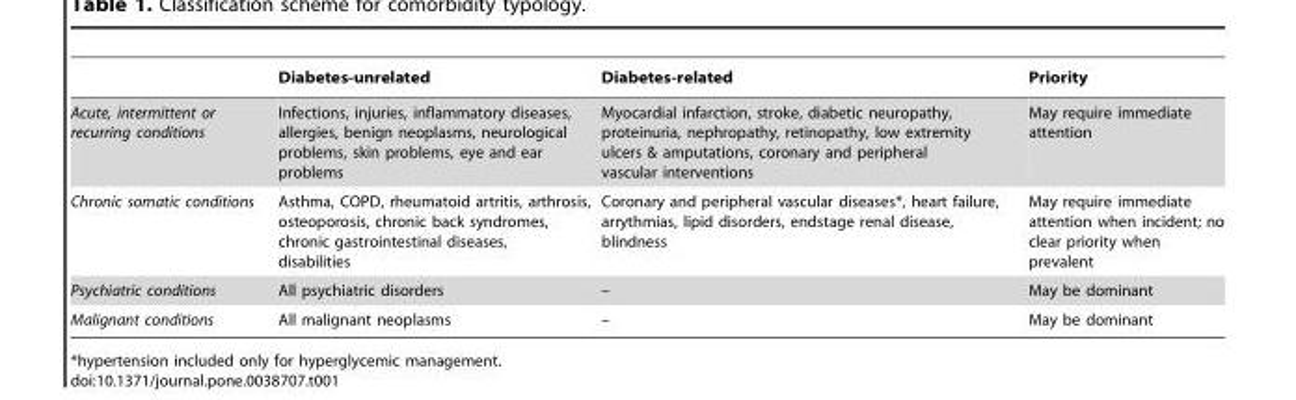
<table><thead><tr><td></td><td>Diabetes-unrelated</td><td>Diabetes-related</td><td>Priority</td></tr></thead><tbody><tr><td>Acute, intermittent or recurring conditions</td><td>Infections, injuries, inflammatory diseases, allergies, benign neoplasms, neurological problems, skin problems, eye and ear problems</td><td>Myocardial infarction, stroke, diabetic neuropathy, proteinuria, nephropathy, retinopathy, low extremity ulcers &amp; amputations, coronary and peripheral vascular interventions</td><td>May require immediate attention</td></tr><tr><td>Chronic somatic conditions</td><td>Asthma, COPD, rheumatoid artritis, arthrosis, osteoporosis, chronic back syndromes, chronic gastrointestinal diseases, disabilities</td><td>Coronary and peripheral vascular diseases*, heart failure, arrythmias, lipid disorders, endstage renal disease, blindness</td><td>May require immediate attention when incident; no clear priority when prevalent</td></tr><tr><td>Psychiatric conditions</td><td>All psychiatric disorders</td><td>–</td><td>May be dominant</td></tr><tr><td>Malignant conditions</td><td>All malignant neoplasms</td><td>–</td><td>May be dominant</td></tr></tbody></table>